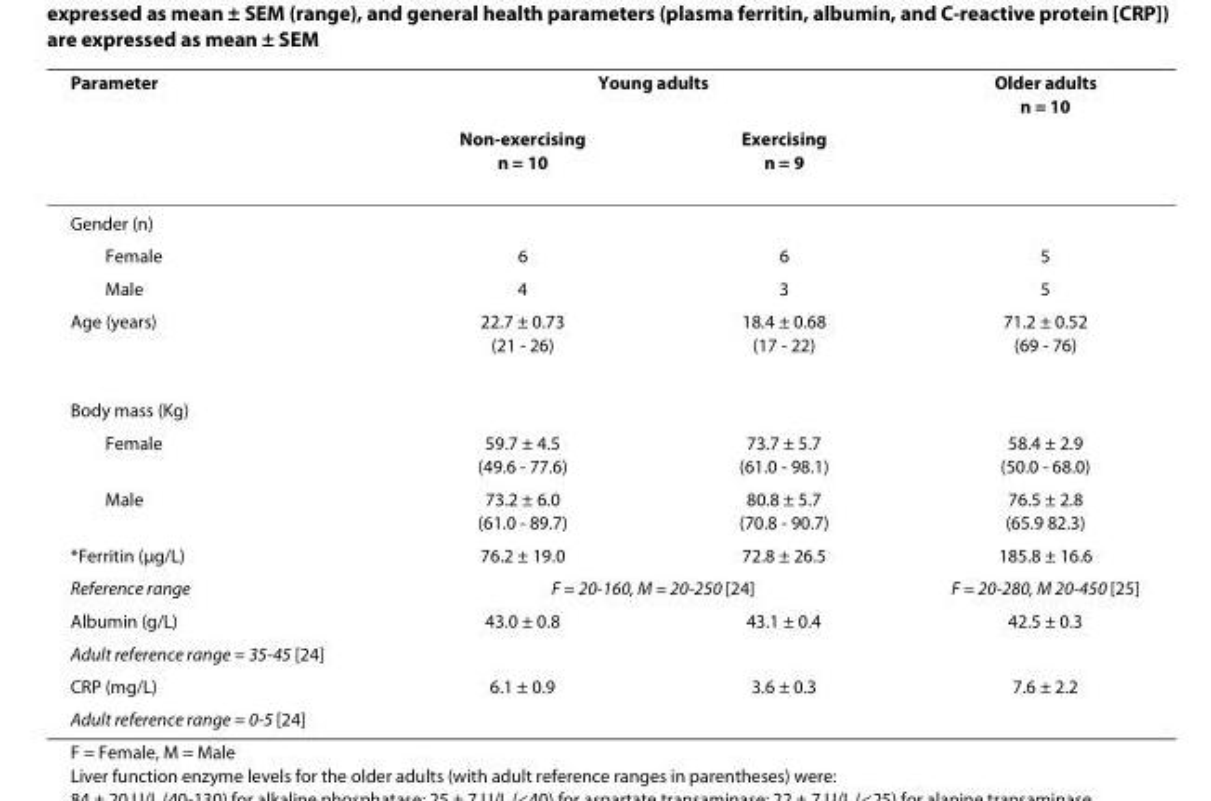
<table><thead><tr><td rowspan="2">Parameter</td><td colspan="2">Young adults</td><td rowspan="2">Older adults n = 10</td></tr><tr><td>Non-exercising n = 10</td><td>Exercising n = 9</td></tr></thead><tbody><tr><td colspan="4">Gender (n)</td></tr><tr><td>Female</td><td>6</td><td>6</td><td>5</td></tr><tr><td>Male</td><td>4</td><td>3</td><td>5</td></tr><tr><td>Age (years)</td><td>22.7 ± 0.73 (21 - 26)</td><td>18.4 ± 0.68 (17 - 22)</td><td>71.2 ± 0.52 (69 - 76)</td></tr><tr><td colspan="4">Body mass (Kg)</td></tr><tr><td>Female</td><td>59.7 ± 4.5 (49.6 - 77.6)</td><td>73.7 ± 5.7 (61.0 - 98.1)</td><td>58.4 ± 2.9 (50.0 - 68.0)</td></tr><tr><td>Male</td><td>73.2 ± 6.0 (61.0 - 89.7)</td><td>80.8 ± 5.7 (70.8 - 90.7)</td><td>76.5 ± 2.8 (65.9 82.3)</td></tr><tr><td>*Ferritin (μg/L)</td><td>76.2 ± 19.0</td><td>72.8 ± 26.5</td><td>185.8 ± 16.6</td></tr><tr><td>Reference range</td><td colspan="2">F = 20-160, M = 20-250 [24]</td><td>F = 20-280, M 20-450 [25]</td></tr><tr><td>Albumin (g/L)</td><td>43.0 ± 0.8</td><td>43.1 ± 0.4</td><td>42.5 ± 0.3</td></tr><tr><td colspan="4">Adult reference range = 35-45 [24]</td></tr><tr><td>CRP (mg/L)</td><td>6.1 ± 0.9</td><td>3.6 ± 0.3</td><td>7.6 ± 2.2</td></tr><tr><td>Adult reference range = 0-5 [24]</td><td></td><td></td><td></td></tr></tbody></table>